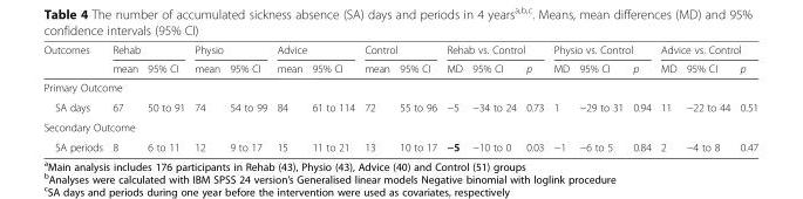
<table><thead><tr><td rowspan="2">Outcomes</td><td colspan="2">Rehab</td><td colspan="2">Physio</td><td colspan="2">Advice</td><td colspan="2">Control</td><td colspan="3">Rehab vs. Control</td><td colspan="3">Physio vs. Control</td><td colspan="3">Advice vs. Control</td></tr><tr><td>mean</td><td>95% CI</td><td>mean</td><td>95% CI</td><td>mean</td><td>95% CI</td><td>mean</td><td>95% CI</td><td>MD</td><td>95% CI</td><td>p</td><td>MD</td><td>95% CI</td><td>p</td><td>MD</td><td>95% CI</td><td>p</td></tr></thead><tbody><tr><td colspan="18">Primary Outcome</td></tr><tr><td>SA days</td><td>67</td><td>50 to 91</td><td>74</td><td>54 to 99</td><td>84</td><td>61 to 114</td><td>72</td><td>55 to 96</td><td>−5</td><td>−34 to 24</td><td>0.73</td><td>1</td><td>−29 to 31</td><td>0.94</td><td>11</td><td>−22 to 44</td><td>0.51</td></tr><tr><td colspan="18">Secondary Outcome</td></tr><tr><td>SA periods</td><td>8</td><td>6 to 11</td><td>12</td><td>9 to 17</td><td>15</td><td>11 to 21</td><td>13</td><td>10 to 17</td><td>−5</td><td>−10 to 0</td><td>0.03</td><td>−1</td><td>−6 to 5</td><td>0.84</td><td>2</td><td>−4 to 8</td><td>0.47</td></tr></tbody></table>